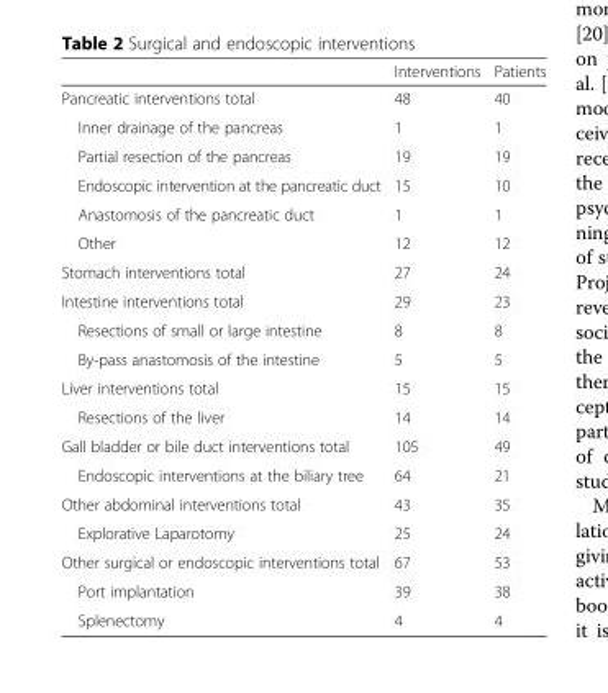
<table><thead><tr><td></td><td>Interventions</td><td>Patients</td></tr></thead><tbody><tr><td>Pancreatic interventions total</td><td>48</td><td>40</td></tr><tr><td>Inner drainage of the pancreas</td><td>1</td><td>1</td></tr><tr><td>Partial resection of the pancreas</td><td>19</td><td>19</td></tr><tr><td>Endoscopic intervention at the pancreatic duct</td><td>15</td><td>10</td></tr><tr><td>Anastomosis of the pancreatic duct</td><td>1</td><td>1</td></tr><tr><td>Other</td><td>12</td><td>12</td></tr><tr><td>Stomach interventions total</td><td>27</td><td>24</td></tr><tr><td>Intestine interventions total</td><td>29</td><td>23</td></tr><tr><td>Resections of small or large intestine</td><td>8</td><td>8</td></tr><tr><td>By-pass anastomosis of the intestine</td><td>5</td><td>5</td></tr><tr><td>Liver interventions total</td><td>15</td><td>15</td></tr><tr><td>Resections of the liver</td><td>14</td><td>14</td></tr><tr><td>Gall bladder or bile duct interventions total</td><td>105</td><td>49</td></tr><tr><td>Endoscopic interventions at the biliary tree</td><td>64</td><td>21</td></tr><tr><td>Other abdominal interventions total</td><td>43</td><td>35</td></tr><tr><td>Explorative Laparotomy</td><td>25</td><td>24</td></tr><tr><td>Other surgical or endoscopic interventions total</td><td>67</td><td>53</td></tr><tr><td>Port implantation</td><td>39</td><td>38</td></tr><tr><td>Splenectomy</td><td>4</td><td>4</td></tr></tbody></table>